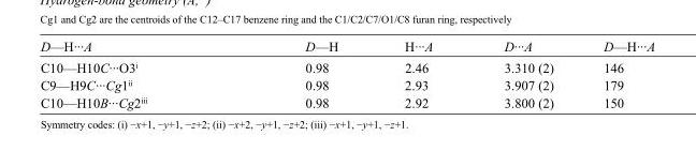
<table><tbody><tr><td>D—H···A</td><td>D—H</td><td>H···A</td><td>D···A</td><td>D—H···A</td></tr><tr><td>C10—H10C···O3<sup>i</sup></td><td>0.98</td><td>2.46</td><td>3.310 (2)</td><td>146</td></tr><tr><td>C9—H9C···Cg1<sup>ii</sup></td><td>0.98</td><td>2.93</td><td>3.907 (2)</td><td>179</td></tr><tr><td>C10—H10B···Cg2<sup>iii</sup></td><td>0.98</td><td>2.92</td><td>3.800 (2)</td><td>150</td></tr></tbody></table>